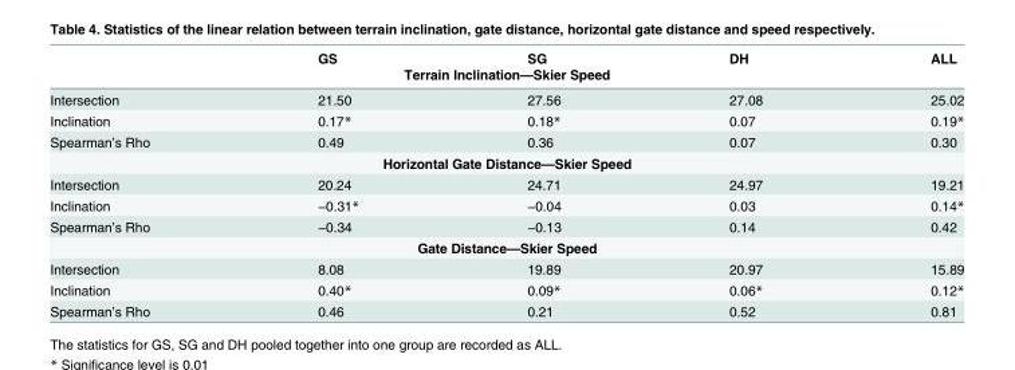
<table><thead><tr><td></td><td>GS</td><td>SG</td><td>DH</td><td>ALL</td></tr><tr><td colspan="5">Terrain Inclination—Skier Speed</td></tr></thead><tbody><tr><td>Intersection</td><td>21.50</td><td>27.56</td><td>27.08</td><td>25.02</td></tr><tr><td>Inclination</td><td>0.17*</td><td>0.18*</td><td>0.07</td><td>0.19*</td></tr><tr><td>Spearman’s Rho</td><td>0.49</td><td>0.36</td><td>0.07</td><td>0.30</td></tr><tr><td colspan="5">Horizontal Gate Distance—Skier Speed</td></tr><tr><td>Intersection</td><td>20.24</td><td>24.71</td><td>24.97</td><td>19.21</td></tr><tr><td>Inclination</td><td>−0.31*</td><td>−0.04</td><td>0.03</td><td>0.14*</td></tr><tr><td>Spearman’s Rho</td><td>−0.34</td><td>−0.13</td><td>0.14</td><td>0.42</td></tr><tr><td colspan="5">Gate Distance—Skier Speed</td></tr><tr><td>Intersection</td><td>8.08</td><td>19.89</td><td>20.97</td><td>15.89</td></tr><tr><td>Inclination</td><td>0.40*</td><td>0.09*</td><td>0.06*</td><td>0.12*</td></tr><tr><td>Spearman’s Rho</td><td>0.46</td><td>0.21</td><td>0.52</td><td>0.81</td></tr></tbody></table>